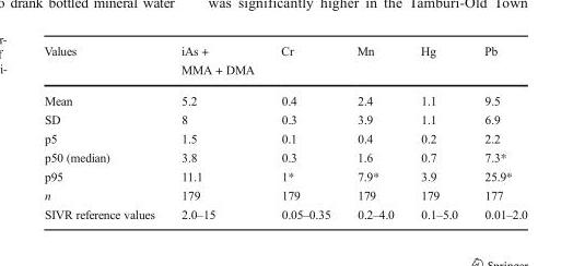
<table><thead><tr><td>Values</td><td>iAs + MMA + DMA</td><td>Cr</td><td>Mn</td><td>Hg</td><td>Pb</td></tr></thead><tbody><tr><td>Mean</td><td>5.2</td><td>0.4</td><td>2.4</td><td>1.1</td><td>9.5</td></tr><tr><td>SD</td><td>8</td><td>0.3</td><td>3.9</td><td>1.1</td><td>6.9</td></tr><tr><td>p5</td><td>1.5</td><td>0.1</td><td>0.4</td><td>0.2</td><td>2.2</td></tr><tr><td>p50 (median)</td><td>3.8</td><td>0.3</td><td>1.6</td><td>0.7</td><td>7.3*</td></tr><tr><td>p95</td><td>11.1</td><td>1*</td><td>7.9*</td><td>3.9</td><td>25.9*</td></tr><tr><td>n</td><td>179</td><td>179</td><td>179</td><td>179</td><td>177</td></tr><tr><td>SIVR reference values</td><td>2.0–15</td><td>0.05–0.35</td><td>0.2–4.0</td><td>0.1–5.0</td><td>0.01–2.0</td></tr></tbody></table>